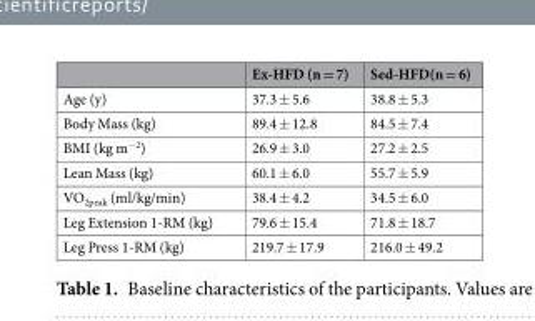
<table><thead><tr><td></td><td>Ex-HFD (n = 7)</td><td>Sed-HFD(n = 6)</td></tr></thead><tbody><tr><td>Age (y)</td><td>37.3 ± 5.6</td><td>38.8 ± 5.3</td></tr><tr><td>Body Mass (kg)</td><td>89.4 ± 12.8</td><td>84.5 ± 7.4</td></tr><tr><td>BMI (kg m<sup>−2</sup>)</td><td>26.9 ± 3.0</td><td>27.2 ± 2.5</td></tr><tr><td>Lean Mass (kg)</td><td>60.1 ± 6.0</td><td>55.7 ± 5.9</td></tr><tr><td>VO<sub>2peak</sub> (ml/kg/min)</td><td>38.4 ± 4.2</td><td>34.5 ± 6.0</td></tr><tr><td>Leg Extension 1-RM (kg)</td><td>79.6 ± 15.4</td><td>71.8 ± 18.7</td></tr><tr><td>Leg Press 1-RM (kg)</td><td>219.7 ± 17.9</td><td>216.0 ± 49.2</td></tr></tbody></table>